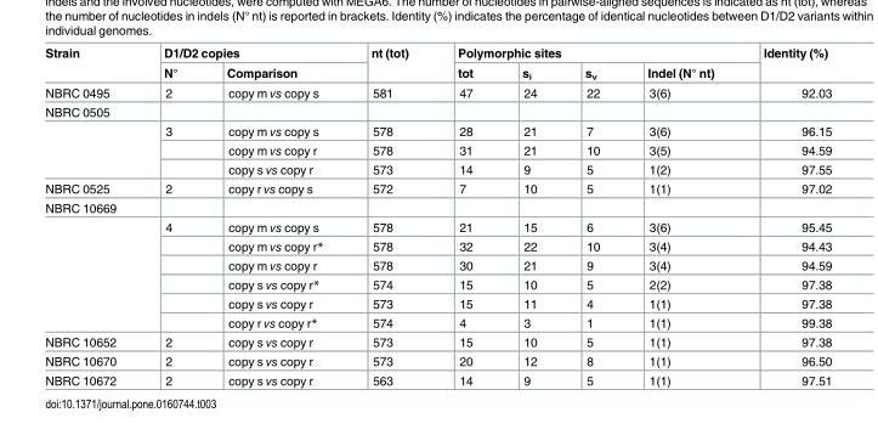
<table><thead><tr><td rowspan="2">Strain</td><td colspan="2">D1/D2 copies</td><td rowspan="2">nt (tot)</td><td colspan="4">Polymorphic sites</td><td rowspan="2">Identity (%)</td></tr><tr><td>N°</td><td>Comparison</td><td>tot</td><td>s<sub>i</sub></td><td>s<sub>v</sub></td><td>Indel (N° nt)</td></tr></thead><tbody><tr><td>NBRC 0495</td><td>2</td><td>copy m vs copy s</td><td>581</td><td>47</td><td>24</td><td>22</td><td>3(6)</td><td>92.03</td></tr><tr><td colspan="9">NBRC 0505</td></tr><tr><td rowspan="3"></td><td>3</td><td>copy m vs copy s</td><td>578</td><td>28</td><td>21</td><td>7</td><td>3(6)</td><td>96.15</td></tr><tr><td></td><td>copy m vs copy r</td><td>578</td><td>31</td><td>21</td><td>10</td><td>3(5)</td><td>94.59</td></tr><tr><td></td><td>copy s vs copy r</td><td>573</td><td>14</td><td>9</td><td>5</td><td>1(2)</td><td>97.55</td></tr><tr><td>NBRC 0525</td><td>2</td><td>copy r vs copy s</td><td>572</td><td>7</td><td>10</td><td>5</td><td>1(1)</td><td>97.02</td></tr><tr><td colspan="9">NBRC 10669</td></tr><tr><td rowspan="6"></td><td>4</td><td>copy m vs copy s</td><td>578</td><td>21</td><td>15</td><td>6</td><td>3(6)</td><td>95.45</td></tr><tr><td></td><td>copy m vs copy r*</td><td>578</td><td>32</td><td>22</td><td>10</td><td>3(4)</td><td>94.43</td></tr><tr><td></td><td>copy m vs copy r</td><td>578</td><td>30</td><td>21</td><td>9</td><td>3(4)</td><td>94.59</td></tr><tr><td></td><td>copy s vs copy r*</td><td>574</td><td>15</td><td>10</td><td>5</td><td>2(2)</td><td>97.38</td></tr><tr><td></td><td>copy s vs copy r</td><td>573</td><td>15</td><td>11</td><td>4</td><td>1(1)</td><td>97.38</td></tr><tr><td></td><td>copy r vs copy r*</td><td>574</td><td>4</td><td>3</td><td>1</td><td>1(1)</td><td>99.38</td></tr><tr><td>NBRC 10652</td><td>2</td><td>copy s vs copy r</td><td>573</td><td>15</td><td>10</td><td>5</td><td>1(1)</td><td>97.38</td></tr><tr><td>NBRC 10670</td><td>2</td><td>copy s vs copy r</td><td>573</td><td>20</td><td>12</td><td>8</td><td>1(1)</td><td>96.50</td></tr><tr><td>NBRC 10672</td><td>2</td><td>copy s vs copy r</td><td>563</td><td>14</td><td>9</td><td>5</td><td>1(1)</td><td>97.51</td></tr></tbody></table>